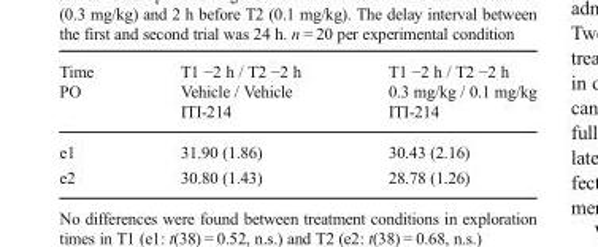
<table><thead><tr><td>Time PO</td><td>T1 −2 h / T2 −2 h Vehicle / Vehicle ITI-214</td><td>T1 −2 h / T2 −2 h 0.3 mg/kg / 0.1 mg/kg ITI-214</td></tr></thead><tbody><tr><td>e1</td><td>31.90 (1.86)</td><td>30.43 (2.16)</td></tr><tr><td>e2</td><td>30.80 (1.43)</td><td>28.78 (1.26)</td></tr></tbody></table>